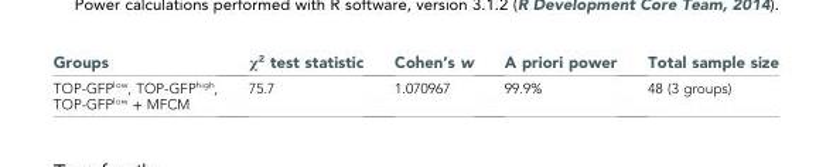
<table><thead><tr><td>Groups</td><td>χ<sup>2</sup> test statistic</td><td>Cohen’s w</td><td>A priori power</td><td>Total sample size</td></tr></thead><tbody><tr><td>TOP-GFP<sup>low</sup>, TOP-GFP<sup>high</sup>, TOP-GFP<sup>low</sup> + MFCM</td><td>75.7</td><td>1.070967</td><td>99.9%</td><td>48 (3 groups)</td></tr></tbody></table>